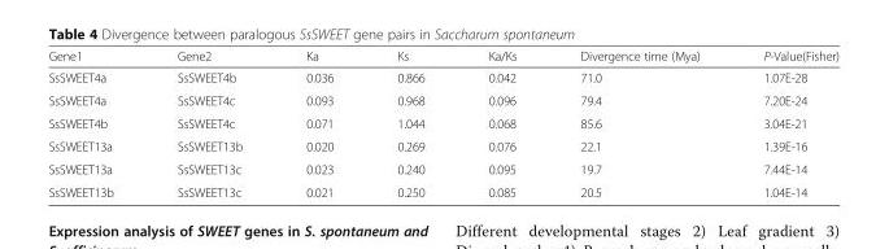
<table><thead><tr><td>Gene1</td><td>Gene2</td><td>Ka</td><td>Ks</td><td>Ka/Ks</td><td>Divergence time (Mya)</td><td>P-Value(Fisher)</td></tr></thead><tbody><tr><td>SsSWEET4a</td><td>SsSWEET4b</td><td>0.036</td><td>0.866</td><td>0.042</td><td>71.0</td><td>1.07E-28</td></tr><tr><td>SsSWEET4a</td><td>SsSWEET4c</td><td>0.093</td><td>0.968</td><td>0.096</td><td>79.4</td><td>7.20E-24</td></tr><tr><td>SsSWEET4b</td><td>SsSWEET4c</td><td>0.071</td><td>1.044</td><td>0.068</td><td>85.6</td><td>3.04E-21</td></tr><tr><td>SsSWEET13a</td><td>SsSWEET13b</td><td>0.020</td><td>0.269</td><td>0.076</td><td>22.1</td><td>1.39E-16</td></tr><tr><td>SsSWEET13a</td><td>SsSWEET13c</td><td>0.023</td><td>0.240</td><td>0.095</td><td>19.7</td><td>7.44E-14</td></tr><tr><td>SsSWEET13b</td><td>SsSWEET13c</td><td>0.021</td><td>0.250</td><td>0.085</td><td>20.5</td><td>1.04E-14</td></tr></tbody></table>